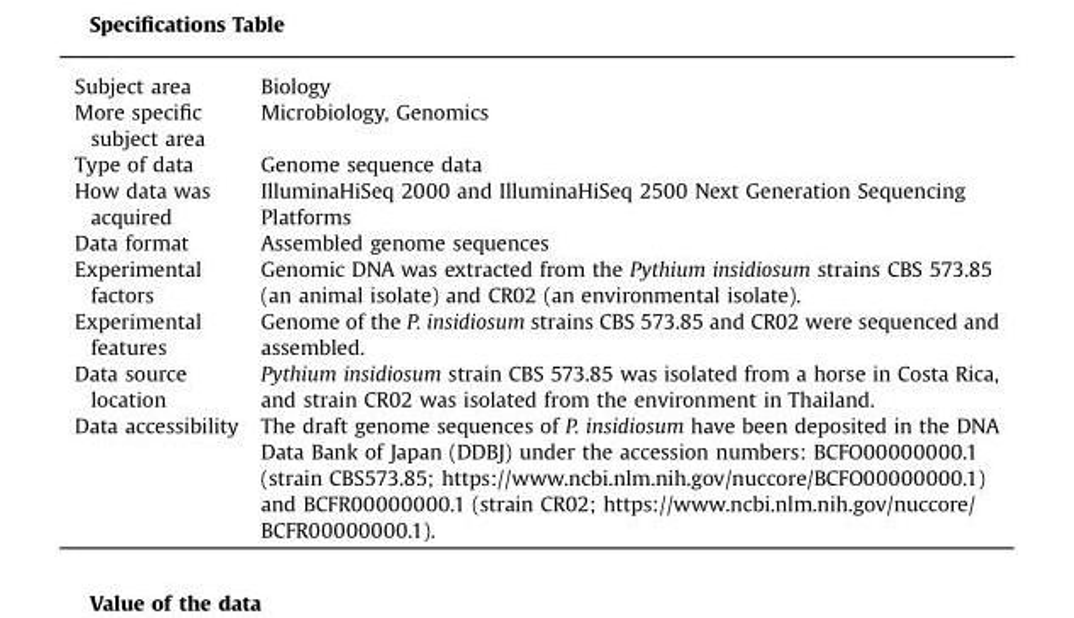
<table><tbody><tr><td>Subject area</td><td>Biology</td></tr><tr><td>More specific subject area</td><td>Microbiology, Genomics</td></tr><tr><td>Type of data</td><td>Genome sequence data</td></tr><tr><td>How data was acquired</td><td>IlluminaHiSeq 2000 and IlluminaHiSeq 2500 Next Generation Sequencing Platforms</td></tr><tr><td>Data format</td><td>Assembled genome sequences</td></tr><tr><td>Experimental factors</td><td>Genomic DNA was extracted from the Pythium insidiosum strains CBS 573.85 (an animal isolate) and CR02 (an environmental isolate).</td></tr><tr><td>Experimental features</td><td>Genome of the P. insidiosum strains CBS 573.85 and CR02 were sequenced and assembled.</td></tr><tr><td>Data source location</td><td>Pythium insidiosum strain CBS 573.85 was isolated from a horse in Costa Rica, and strain CR02 was isolated from the environment in Thailand.</td></tr><tr><td>Data accessibility</td><td>The draft genome sequences of P. insidiosum have been deposited in the DNA Data Bank of Japan (DDBJ) under the accession numbers: BCFO00000000.1 (strain CBS573.85; https://www.ncbi.nlm.nih.gov/nuccore/BCFO00000000.1) and BCFR00000000.1 (strain CR02; https://www.ncbi.nlm.nih.gov/nuccore/ BCFR00000000.1).</td></tr></tbody></table>